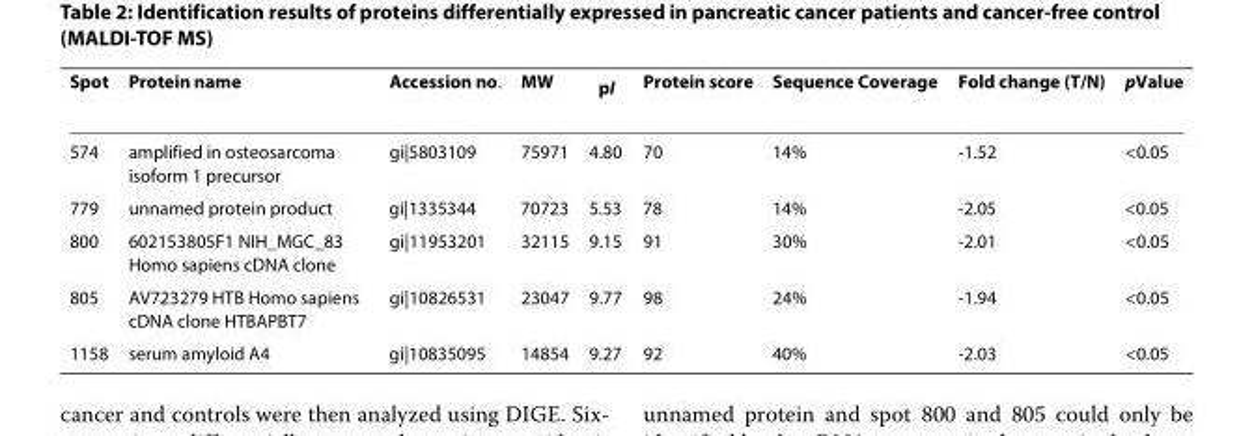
<table><thead><tr><td>Spot</td><td>Protein name</td><td>Accession no.</td><td>MW</td><td>pI</td><td>Protein score</td><td>Sequence Coverage</td><td>Fold change (T/N)</td><td>pValue</td></tr></thead><tbody><tr><td>574</td><td>amplified in osteosarcoma isoform 1 precursor</td><td>gi|5803109</td><td>75971</td><td>4.80</td><td>70</td><td>14%</td><td>-1.52</td><td>&lt;0.05</td></tr><tr><td>779</td><td>unnamed protein product</td><td>gi|1335344</td><td>70723</td><td>5.53</td><td>78</td><td>14%</td><td>-2.05</td><td>&lt;0.05</td></tr><tr><td>800</td><td>602153805F1 NIH_MGC_83 Homo sapiens cDNA clone</td><td>gi|11953201</td><td>32115</td><td>9.15</td><td>91</td><td>30%</td><td>-2.01</td><td>&lt;0.05</td></tr><tr><td>805</td><td>AV723279 HTB Homo sapiens cDNA clone HTBAPBT7</td><td>gi|10826531</td><td>23047</td><td>9.77</td><td>98</td><td>24%</td><td>-1.94</td><td>&lt;0.05</td></tr><tr><td>1158</td><td>serum amyloid A4</td><td>gi|10835095</td><td>14854</td><td>9.27</td><td>92</td><td>40%</td><td>-2.03</td><td>&lt;0.05</td></tr></tbody></table>